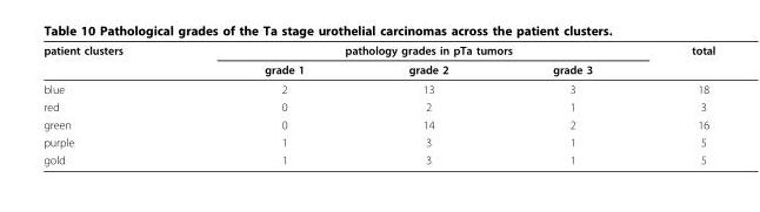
<table><thead><tr><td rowspan="2">patient clusters</td><td colspan="3">pathology grades in pTa tumors</td><td rowspan="2">total</td></tr><tr><td>grade 1</td><td>grade 2</td><td>grade 3</td></tr></thead><tbody><tr><td>blue</td><td>2</td><td>13</td><td>3</td><td>18</td></tr><tr><td>red</td><td>0</td><td>2</td><td>1</td><td>3</td></tr><tr><td>green</td><td>0</td><td>14</td><td>2</td><td>16</td></tr><tr><td>purple</td><td>1</td><td>3</td><td>1</td><td>5</td></tr><tr><td>gold</td><td>1</td><td>3</td><td>1</td><td>5</td></tr></tbody></table>